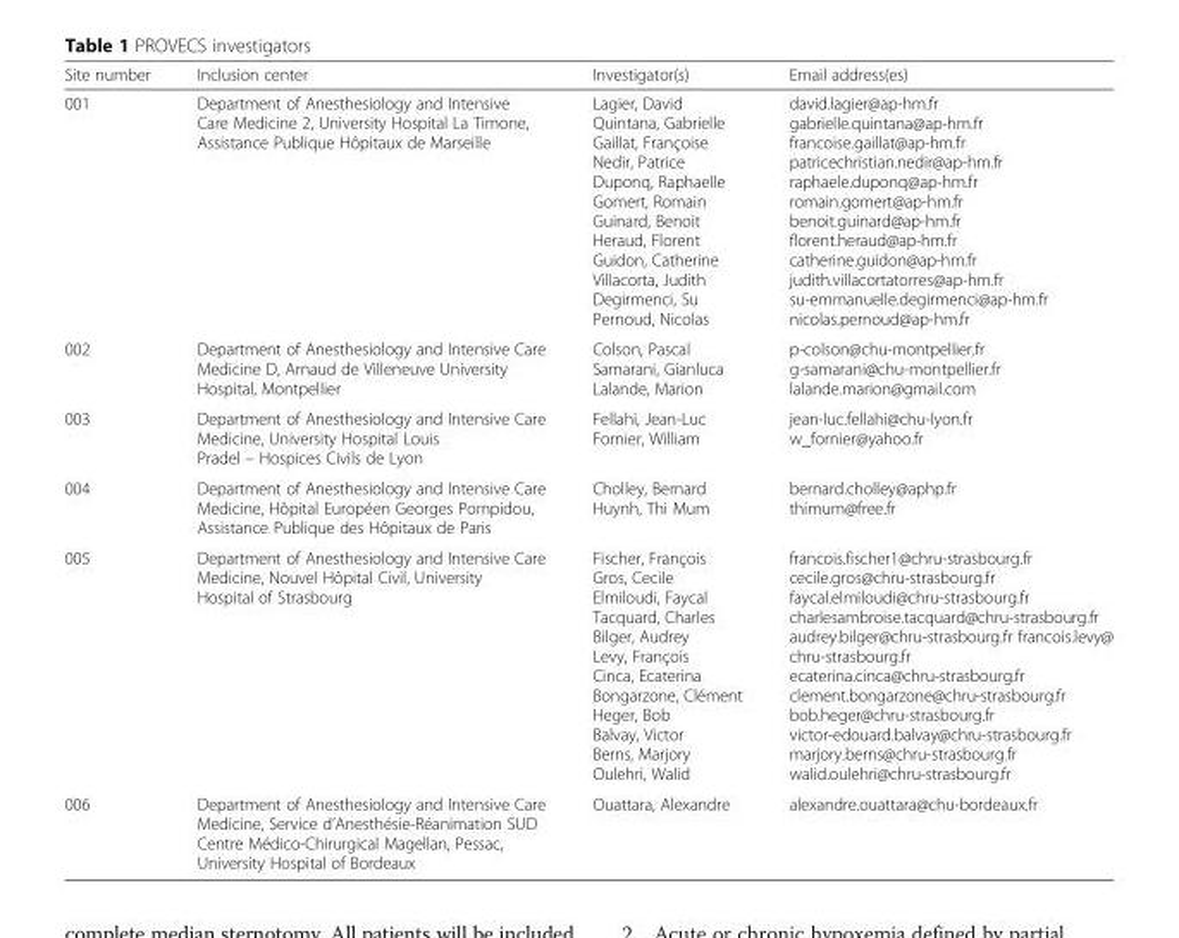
<table><thead><tr><td>Site number</td><td>Inclusion center</td><td>Investigator(s)</td><td>Email address(es)</td></tr></thead><tbody><tr><td>001</td><td>Department of Anesthesiology and Intensive Care Medicine 2, University Hospital La Timone, Assistance Publique Hôpitaux de Marseille</td><td>Lagier, David Quintana, Gabrielle Gaillat, Françoise Nedir, Patrice Duponq, Raphaelle Gomert, Romain Guinard, Benoit Heraud, Florent Guidon, Catherine Villacorta, Judith Degirmenci, Su Pernoud, Nicolas</td><td>david.lagier@ap-hm.fr gabrielle.quintana@ap-hm.fr francoise.gaillat@ap-hm.fr patricechristian.nedir@ap-hm.fr raphaele.duponq@ap-hm.fr romain.gomert@ap-hm.fr benoit.guinard@ap-hm.fr florent.heraud@ap-hm.fr catherine.guidon@ap-hm.fr judith.villacortatorres@ap-hm.fr su-emmanuelle.degirmenci@ap-hm.fr nicolas.pernoud@ap-hm.fr</td></tr><tr><td>002</td><td>Department of Anesthesiology and Intensive Care Medicine D, Arnaud de Villeneuve University Hospital, Montpellier</td><td>Colson, Pascal Samarani, Gianluca Lalande, Marion</td><td>p-colson@chu-montpellier.fr g-samarani@chu-montpellier.fr lalande.marion@gmail.com</td></tr><tr><td>003</td><td>Department of Anesthesiology and Intensive Care Medicine, University Hospital Louis Pradel – Hospices Civils de Lyon</td><td>Fellahi, Jean-Luc Fornier, William</td><td>jean-luc.fellahi@chu-lyon.fr w_fornier@yahoo.fr</td></tr><tr><td>004</td><td>Department of Anesthesiology and Intensive Care Medicine, Hôpital Européen Georges Pompidou, Assistance Publique des Hôpitaux de Paris</td><td>Cholley, Bernard Huynh, Thi Mum</td><td>bernard.cholley@aphp.fr thimum@free.fr</td></tr><tr><td>005</td><td>Department of Anesthesiology and Intensive Care Medicine, Nouvel Hôpital Civil, University Hospital of Strasbourg</td><td>Fischer, François Gros, Cecile Elmiloudi, Faycal Tacquard, Charles Bilger, Audrey Levy, François Cinca, Ecaterina Bongarzone, Clément Heger, Bob Balvay, Victor Berns, Marjory Oulehri, Walid</td><td>francois.fischer1@chru-strasbourg.fr cecile.gros@chru-strasbourg.fr faycal.elmiloudi@chru-strasbourg.fr charlesambroise.tacquard@chru-strasbourg.fr audrey.bilger@chru-strasbourg.fr francois.levy@ chru-strasbourg.fr ecaterina.cinca@chru-strasbourg.fr clement.bongarzone@chru-strasbourg.fr bob.heger@chru-strasbourg.fr victor-edouard.balvay@chru-strasbourg.fr marjory.berns@chru-strasbourg.fr walid.oulehri@chru-strasbourg.fr</td></tr><tr><td>006</td><td>Department of Anesthesiology and Intensive Care Medicine, Service d’Anesthésie-Réanimation SUD Centre Médico-Chirurgical Magellan, Pessac, University Hospital of Bordeaux</td><td>Ouattara, Alexandre</td><td>alexandre.ouattara@chu-bordeaux.fr</td></tr></tbody></table>